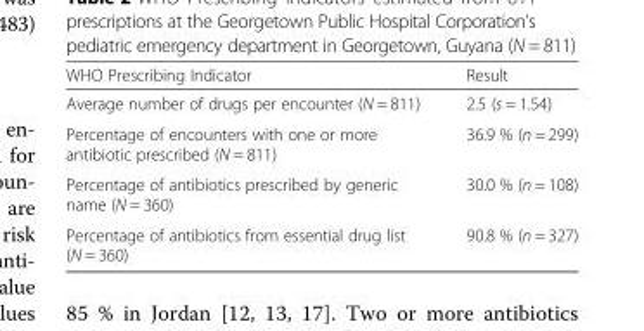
<table><thead><tr><td>WHO Prescribing Indicator</td><td>Result</td></tr></thead><tbody><tr><td>Average number of drugs per encounter (N = 811)</td><td>2.5 (s = 1.54)</td></tr><tr><td>Percentage of encounters with one or more antibiotic prescribed (N = 811)</td><td>36.9 % (n = 299)</td></tr><tr><td>Percentage of antibiotics prescribed by generic name (N = 360)</td><td>30.0 % (n = 108)</td></tr><tr><td>Percentage of antibiotics from essential drug list (N = 360)</td><td>90.8 % (n = 327)</td></tr></tbody></table>